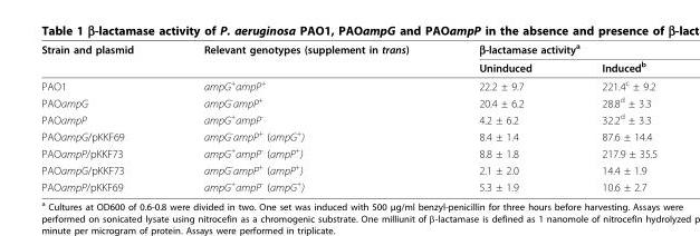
<table><thead><tr><td rowspan="2">Strain and plasmid</td><td rowspan="2">Relevant genotypes (supplement in trans)</td><td colspan="2">β-lactamase activity<sup>a</sup></td></tr><tr><td>Uninduced</td><td>Induced<sup>b</sup></td></tr></thead><tbody><tr><td>PAO1</td><td>ampG<sup>+</sup>ampP<sup>+</sup></td><td>22.2 ± 9.7</td><td>221.4<sup>c</sup> ± 9.2</td></tr><tr><td>PAOampG</td><td>ampG<sup>-</sup>ampP<sup>+</sup></td><td>20.4 ± 6.2</td><td>28.8<sup>d</sup> ± 3.3</td></tr><tr><td>PAOampP</td><td>ampG<sup>+</sup>ampP<sup>-</sup></td><td>4.2 ± 6.2</td><td>32.2<sup>d</sup> ± 3.3</td></tr><tr><td>PAOampG/pKKF69</td><td>ampG<sup>-</sup>ampP<sup>+</sup> (ampG<sup>+</sup>)</td><td>8.4 ± 1.4</td><td>87.6 ± 14.4</td></tr><tr><td>PAOampP/pKKF73</td><td>ampG<sup>+</sup>ampP<sup>-</sup> (ampP<sup>+</sup>)</td><td>8.8 ± 1.8</td><td>217.9 ± 35.5</td></tr><tr><td>PAOampG/pKKF73</td><td>ampG<sup>-</sup>ampP<sup>+</sup> (ampP<sup>+</sup>)</td><td>2.1 ± 2.0</td><td>14.4 ± 1.9</td></tr><tr><td>PAOampP/pKKF69</td><td>ampG<sup>+</sup>ampP<sup>-</sup> (ampG<sup>+</sup>)</td><td>5.3 ± 1.9</td><td>10.6 ± 2.7</td></tr></tbody></table>